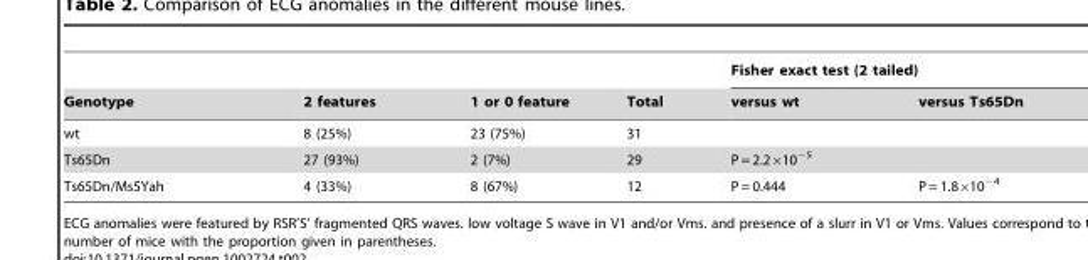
<table><thead><tr><td rowspan="2">Genotype</td><td rowspan="2">2 features</td><td rowspan="2">1 or 0 feature</td><td rowspan="2">Total</td><td colspan="2">Fisher exact test (2 tailed)</td></tr><tr><td>versus wt</td><td>versus Ts65Dn</td></tr></thead><tbody><tr><td>wt</td><td>8 (25%)</td><td>23 (75%)</td><td>31</td><td></td><td></td></tr><tr><td>Ts65Dn</td><td>27 (93%)</td><td>2 (7%)</td><td>29</td><td>P = 2.2×10<sup>−5</sup></td><td></td></tr><tr><td>Ts65Dn/Ms5Yah</td><td>4 (33%)</td><td>8 (67%)</td><td>12</td><td>P = 0.444</td><td>P = 1.8×10<sup>−4</sup></td></tr></tbody></table>